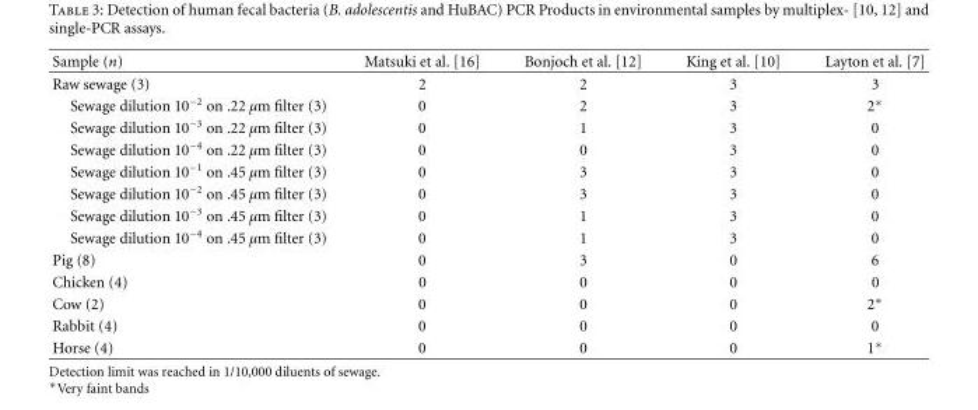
<table><thead><tr><td>Sample (n)</td><td>Matsuki et al. [16]</td><td>Bonjoch et al. [12]</td><td>King et al. [10]</td><td>Layton et al. [7]</td></tr></thead><tbody><tr><td>Raw sewage (3)</td><td>2</td><td>2</td><td>3</td><td>3</td></tr><tr><td>Sewage dilution 10<sup>−2</sup> on .22 μm filter (3)</td><td>0</td><td>2</td><td>3</td><td>2∗</td></tr><tr><td>Sewage dilution 10<sup>−3</sup> on .22 μm filter (3)</td><td>0</td><td>1</td><td>3</td><td>0</td></tr><tr><td>Sewage dilution 10<sup>−4</sup> on .22 μm filter (3)</td><td>0</td><td>0</td><td>3</td><td>0</td></tr><tr><td>Sewage dilution 10<sup>−1</sup> on .45 μm filter (3)</td><td>0</td><td>3</td><td>3</td><td>0</td></tr><tr><td>Sewage dilution 10<sup>−2</sup> on .45 μm filter (3)</td><td>0</td><td>3</td><td>3</td><td>0</td></tr><tr><td>Sewage dilution 10<sup>−3</sup> on .45 μm filter (3)</td><td>0</td><td>1</td><td>3</td><td>0</td></tr><tr><td>Sewage dilution 10<sup>−4</sup> on .45 μm filter (3)</td><td>0</td><td>1</td><td>3</td><td>0</td></tr><tr><td>Pig (8)</td><td>0</td><td>3</td><td>0</td><td>6</td></tr><tr><td>Chicken (4)</td><td>0</td><td>0</td><td>0</td><td>0</td></tr><tr><td>Cow (2)</td><td>0</td><td>0</td><td>0</td><td>2∗</td></tr><tr><td>Rabbit (4)</td><td>0</td><td>0</td><td>0</td><td>0</td></tr><tr><td>Horse (4)</td><td>0</td><td>0</td><td>0</td><td>1∗</td></tr></tbody></table>